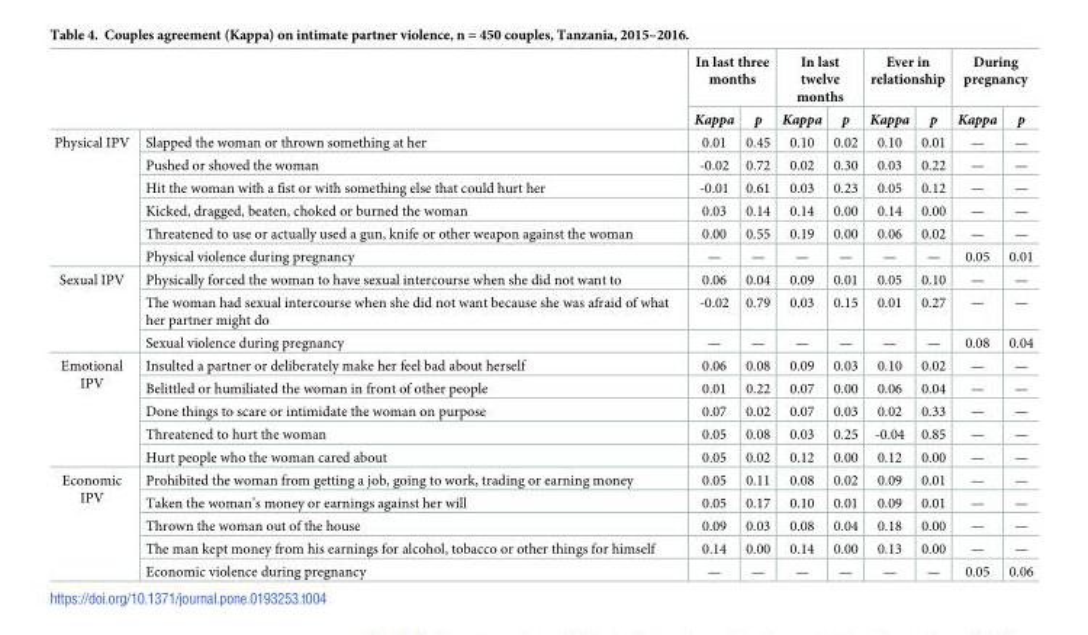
<table><thead><tr><td rowspan="2"></td><td rowspan="2"></td><td colspan="2">In last three months</td><td colspan="2">In last twelve months</td><td colspan="2">Ever in relationship</td><td colspan="2">During pregnancy</td></tr><tr><td>Kappa</td><td>p</td><td>Kappa</td><td>p</td><td>Kappa</td><td>p</td><td>Kappa</td><td>p</td></tr></thead><tbody><tr><td rowspan="6">Physical IPV</td><td>Slapped the woman or thrown something at her</td><td>0.01</td><td>0.45</td><td>0.10</td><td>0.02</td><td>0.10</td><td>0.01</td><td>—</td><td>—</td></tr><tr><td>Pushed or shoved the woman</td><td>-0.02</td><td>0.72</td><td>0.02</td><td>0.30</td><td>0.03</td><td>0.22</td><td>—</td><td>—</td></tr><tr><td>Hit the woman with a fist or with something else that could hurt her</td><td>-0.01</td><td>0.61</td><td>0.03</td><td>0.23</td><td>0.05</td><td>0.12</td><td>—</td><td>—</td></tr><tr><td>Kicked, dragged, beaten, choked or burned the woman</td><td>0.03</td><td>0.14</td><td>0.14</td><td>0.00</td><td>0.14</td><td>0.00</td><td>—</td><td>—</td></tr><tr><td>Threatened to use or actually used a gun, knife or other weapon against the woman</td><td>0.00</td><td>0.55</td><td>0.19</td><td>0.00</td><td>0.06</td><td>0.02</td><td>—</td><td>—</td></tr><tr><td>Physical violence during pregnancy</td><td>—</td><td>—</td><td>—</td><td>—</td><td>—</td><td>—</td><td>0.05</td><td>0.01</td></tr><tr><td rowspan="3">Sexual IPV</td><td>Physically forced the woman to have sexual intercourse when she did not want to</td><td>0.06</td><td>0.04</td><td>0.09</td><td>0.01</td><td>0.05</td><td>0.10</td><td>—</td><td>—</td></tr><tr><td>The woman had sexual intercourse when she did not want because she was afraid of what her partner might do</td><td>-0.02</td><td>0.79</td><td>0.03</td><td>0.15</td><td>0.01</td><td>0.27</td><td>—</td><td>—</td></tr><tr><td>Sexual violence during pregnancy</td><td>—</td><td>—</td><td>—</td><td>—</td><td>—</td><td>—</td><td>0.08</td><td>0.04</td></tr><tr><td rowspan="5">Emotional IPV</td><td>Insulted a partner or deliberately make her feel bad about herself</td><td>0.06</td><td>0.08</td><td>0.09</td><td>0.03</td><td>0.10</td><td>0.02</td><td>—</td><td>—</td></tr><tr><td>Belittled or humiliated the woman in front of other people</td><td>0.01</td><td>0.22</td><td>0.07</td><td>0.00</td><td>0.06</td><td>0.04</td><td>—</td><td>—</td></tr><tr><td>Done things to scare or intimidate the woman on purpose</td><td>0.07</td><td>0.02</td><td>0.07</td><td>0.03</td><td>0.02</td><td>0.33</td><td>—</td><td>—</td></tr><tr><td>Threatened to hurt the woman</td><td>0.05</td><td>0.08</td><td>0.03</td><td>0.25</td><td>-0.04</td><td>0.85</td><td>—</td><td>—</td></tr><tr><td>Hurt people who the woman cared about</td><td>0.05</td><td>0.02</td><td>0.12</td><td>0.00</td><td>0.12</td><td>0.00</td><td>—</td><td>—</td></tr><tr><td rowspan="5">Economic IPV</td><td>Prohibited the woman from getting a job, going to work, trading or earning money</td><td>0.05</td><td>0.11</td><td>0.08</td><td>0.02</td><td>0.09</td><td>0.01</td><td>—</td><td>—</td></tr><tr><td>Taken the woman’s money or earnings against her will</td><td>0.05</td><td>0.17</td><td>0.10</td><td>0.01</td><td>0.09</td><td>0.01</td><td>—</td><td>—</td></tr><tr><td>Thrown the woman out of the house</td><td>0.09</td><td>0.03</td><td>0.08</td><td>0.04</td><td>0.18</td><td>0.00</td><td>—</td><td>—</td></tr><tr><td>The man kept money from his earnings for alcohol, tobacco or other things for himself</td><td>0.14</td><td>0.00</td><td>0.14</td><td>0.00</td><td>0.13</td><td>0.00</td><td>—</td><td>—</td></tr><tr><td>Economic violence during pregnancy</td><td>—</td><td>—</td><td>—</td><td>—</td><td>—</td><td>—</td><td>0.05</td><td>0.06</td></tr></tbody></table>